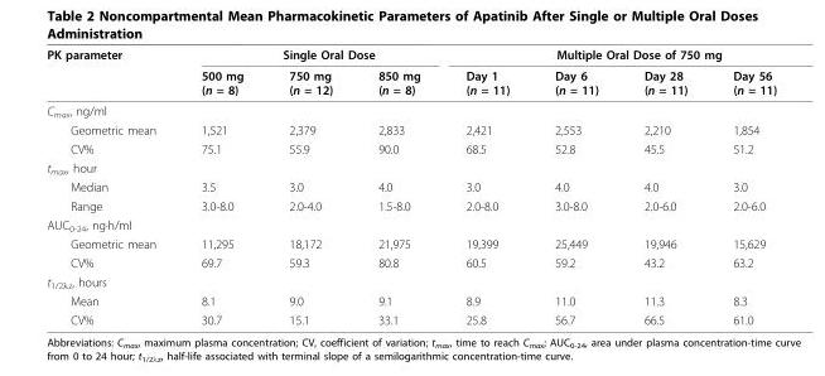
<table><thead><tr><td rowspan="2">PK parameter</td><td colspan="3">Single Oral Dose</td><td colspan="4">Multiple Oral Dose of 750 mg</td></tr><tr><td>500 mg (n = 8)</td><td>750 mg (n = 12)</td><td>850 mg (n = 8)</td><td>Day 1 (n = 11)</td><td>Day 6 (n = 11)</td><td>Day 28 (n = 11)</td><td>Day 56 (n = 11)</td></tr></thead><tbody><tr><td colspan="8">C<sub>max</sub>, ng/ml</td></tr><tr><td>Geometric mean</td><td>1,521</td><td>2,379</td><td>2,833</td><td>2,421</td><td>2,553</td><td>2,210</td><td>1,854</td></tr><tr><td>CV%</td><td>75.1</td><td>55.9</td><td>90.0</td><td>68.5</td><td>52.8</td><td>45.5</td><td>51.2</td></tr><tr><td colspan="8">t<sub>max</sub>, hour</td></tr><tr><td>Median</td><td>3.5</td><td>3.0</td><td>4.0</td><td>3.0</td><td>4.0</td><td>4.0</td><td>3.0</td></tr><tr><td>Range</td><td>3.0-8.0</td><td>2.0-4.0</td><td>1.5-8.0</td><td>2.0-8.0</td><td>3.0-8.0</td><td>2.0-6.0</td><td>2.0-6.0</td></tr><tr><td colspan="8">AUC<sub>0-24</sub>, ng·h/ml</td></tr><tr><td>Geometric mean</td><td>11,295</td><td>18,172</td><td>21,975</td><td>19,399</td><td>25,449</td><td>19,946</td><td>15,629</td></tr><tr><td>CV%</td><td>69.7</td><td>59.3</td><td>80.8</td><td>60.5</td><td>59.2</td><td>43.2</td><td>63.2</td></tr><tr><td colspan="8">t<sub>1/2λz</sub>, hours</td></tr><tr><td>Mean</td><td>8.1</td><td>9.0</td><td>9.1</td><td>8.9</td><td>11.0</td><td>11.3</td><td>8.3</td></tr><tr><td>CV%</td><td>30.7</td><td>15.1</td><td>33.1</td><td>25.8</td><td>56.7</td><td>66.5</td><td>61.0</td></tr></tbody></table>